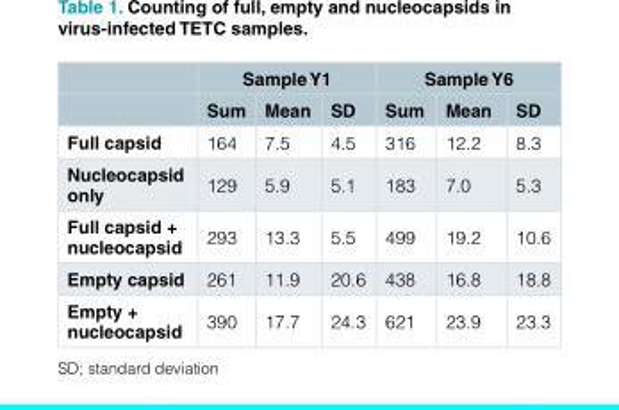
<table><thead><tr><td rowspan="2"></td><td colspan="3">Sample Y1</td><td colspan="3">Sample Y6</td></tr><tr><td>Sum</td><td>Mean</td><td>SD</td><td>Sum</td><td>Mean</td><td>SD</td></tr></thead><tbody><tr><td>Full capsid</td><td>164</td><td>7.5</td><td>4.5</td><td>316</td><td>12.2</td><td>8.3</td></tr><tr><td>Nucleocapsid only</td><td>129</td><td>5.9</td><td>5.1</td><td>183</td><td>7.0</td><td>5.3</td></tr><tr><td>Full capsid + nucleocapsid</td><td>293</td><td>13.3</td><td>5.5</td><td>499</td><td>19.2</td><td>10.6</td></tr><tr><td>Empty capsid</td><td>261</td><td>11.9</td><td>20.6</td><td>438</td><td>16.8</td><td>18.8</td></tr><tr><td>Empty + nucleocapsid</td><td>390</td><td>17.7</td><td>24.3</td><td>621</td><td>23.9</td><td>23.3</td></tr></tbody></table>